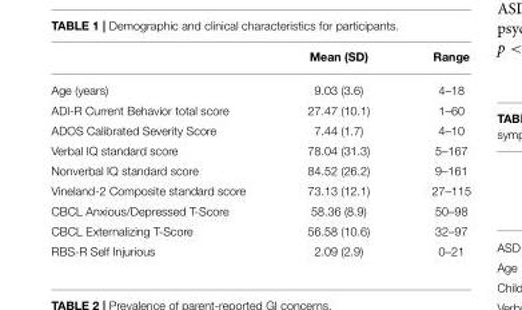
<table><thead><tr><td></td><td>Mean (SD)</td><td>Range</td></tr></thead><tbody><tr><td>Age (years)</td><td>9.03 (3.6)</td><td>4–18</td></tr><tr><td>ADI-R Current Behavior total score</td><td>27.47 (10.1)</td><td>1–60</td></tr><tr><td>ADOS Calibrated Severity Score</td><td>7.44 (1.7)</td><td>4–10</td></tr><tr><td>Verbal IQ standard score</td><td>78.04 (31.3)</td><td>5–167</td></tr><tr><td>Nonverbal IQ standard score</td><td>84.52 (26.2)</td><td>9–161</td></tr><tr><td>Vineland-2 Composite standard score</td><td>73.13 (12.1)</td><td>27–115</td></tr><tr><td>CBCL Anxious/Depressed T-Score</td><td>58.36 (8.9)</td><td>50–98</td></tr><tr><td>CBCL Externalizing T-Score</td><td>56.58 (10.6)</td><td>32–97</td></tr><tr><td>RBS-R Self Injurious</td><td>2.09 (2.9)</td><td>0–21</td></tr></tbody></table>